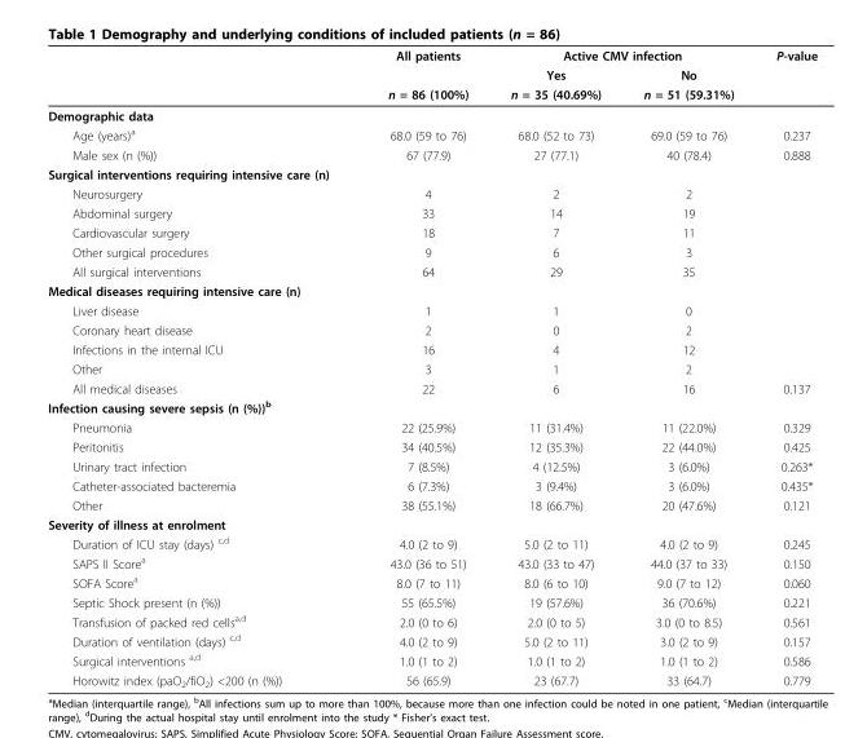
<table><thead><tr><td rowspan="3"></td><td rowspan="3">All patients n = 86 (100%)</td><td colspan="2">Active CMV infection</td><td rowspan="3">P-value</td></tr><tr><td rowspan="2">Yes n = 35 (40.69%)</td><td rowspan="2">No n = 51 (59.31%)</td></tr><tr></tr></thead><tbody><tr><td colspan="5">Demographic data</td></tr><tr><td>Age (years)<sup>a</sup></td><td>68.0 (59 to 76)</td><td>68.0 (52 to 73)</td><td>69.0 (59 to 76)</td><td>0.237</td></tr><tr><td>Male sex (n (%))</td><td>67 (77.9)</td><td>27 (77.1)</td><td>40 (78.4)</td><td>0.888</td></tr><tr><td colspan="5">Surgical interventions requiring intensive care (n)</td></tr><tr><td>Neurosurgery</td><td>4</td><td>2</td><td>2</td><td></td></tr><tr><td>Abdominal surgery</td><td>33</td><td>14</td><td>19</td><td></td></tr><tr><td>Cardiovascular surgery</td><td>18</td><td>7</td><td>11</td><td></td></tr><tr><td>Other surgical procedures</td><td>9</td><td>6</td><td>3</td><td></td></tr><tr><td>All surgical interventions</td><td>64</td><td>29</td><td>35</td><td></td></tr><tr><td colspan="5">Medical diseases requiring intensive care (n)</td></tr><tr><td>Liver disease</td><td>1</td><td>1</td><td>0</td><td></td></tr><tr><td>Coronary heart disease</td><td>2</td><td>0</td><td>2</td><td></td></tr><tr><td>Infections in the internal ICU</td><td>16</td><td>4</td><td>12</td><td></td></tr><tr><td>Other</td><td>3</td><td>1</td><td>2</td><td></td></tr><tr><td>All medical diseases</td><td>22</td><td>6</td><td>16</td><td>0.137</td></tr><tr><td colspan="5">Infection causing severe sepsis (n (%))<sup>b</sup></td></tr><tr><td>Pneumonia</td><td>22 (25.9%)</td><td>11 (31.4%)</td><td>11 (22.0%)</td><td>0.329</td></tr><tr><td>Peritonitis</td><td>34 (40.5%)</td><td>12 (35.3%)</td><td>22 (44.0%)</td><td>0.425</td></tr><tr><td>Urinary tract infection</td><td>7 (8.5%)</td><td>4 (12.5%)</td><td>3 (6.0%)</td><td>0.263*</td></tr><tr><td>Catheter-associated bacteremia</td><td>6 (7.3%)</td><td>3 (9.4%)</td><td>3 (6.0%)</td><td>0.435*</td></tr><tr><td>Other</td><td>38 (55.1%)</td><td>18 (66.7%)</td><td>20 (47.6%)</td><td>0.121</td></tr><tr><td colspan="5">Severity of illness at enrolment</td></tr><tr><td>Duration of ICU stay (days) <sup>c,d</sup></td><td>4.0 (2 to 9)</td><td>5.0 (2 to 11)</td><td>4.0 (2 to 9)</td><td>0.245</td></tr><tr><td>SAPS II Score<sup>a</sup></td><td>43.0 (36 to 51)</td><td>43.0 (33 to 47)</td><td>44.0 (37 to 33)</td><td>0.150</td></tr><tr><td>SOFA Score<sup>a</sup></td><td>8.0 (7 to 11)</td><td>8.0 (6 to 10)</td><td>9.0 (7 to 12)</td><td>0.060</td></tr><tr><td>Septic Shock present (n (%))</td><td>55 (65.5%)</td><td>19 (57.6%)</td><td>36 (70.6%)</td><td>0.221</td></tr><tr><td>Transfusion of packed red cells<sup>a,d</sup></td><td>2.0 (0 to 6)</td><td>2.0 (0 to 5)</td><td>3.0 (0 to 8.5)</td><td>0.561</td></tr><tr><td>Duration of ventilation (days) <sup>c,d</sup></td><td>4.0 (2 to 9)</td><td>5.0 (2 to 11)</td><td>3.0 (2 to 9)</td><td>0.157</td></tr><tr><td>Surgical interventions <sup>a,d</sup></td><td>1.0 (1 to 2)</td><td>1.0 (1 to 2)</td><td>1.0 (1 to 2)</td><td>0.586</td></tr><tr><td>Horowitz index (paO<sub>2</sub>/fiO<sub>2</sub>) &lt;200 (n (%))</td><td>56 (65.9)</td><td>23 (67.7)</td><td>33 (64.7)</td><td>0.779</td></tr></tbody></table>